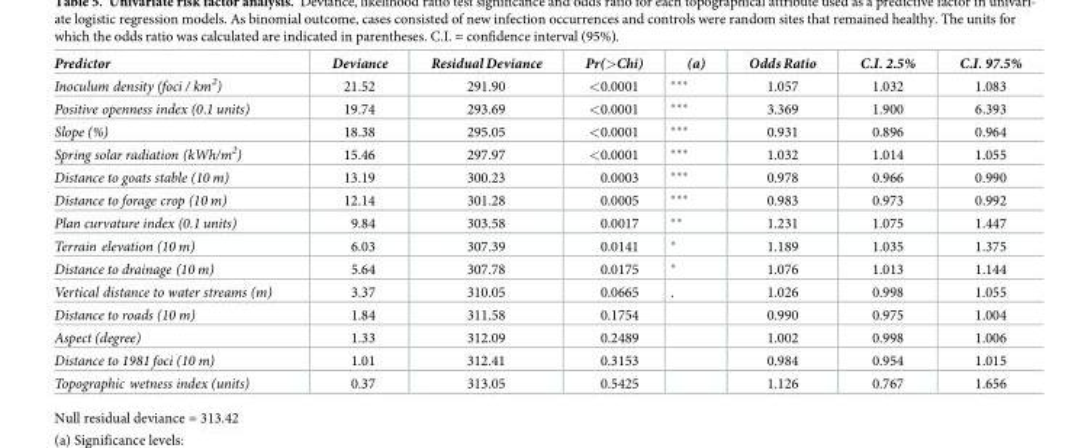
<table><thead><tr><td>Predictor</td><td>Deviance</td><td>Residual Deviance</td><td>Pr(&gt;Chi)</td><td>(a)</td><td>Odds Ratio</td><td>C.I. 2.5%</td><td>C.I. 97.5%</td></tr></thead><tbody><tr><td>Inoculum density (foci / km<sup>2</sup>)</td><td>21.52</td><td>291.90</td><td>&lt;0.0001</td><td>***</td><td>1.057</td><td>1.032</td><td>1.083</td></tr><tr><td>Positive openness index (0.1 units)</td><td>19.74</td><td>293.69</td><td>&lt;0.0001</td><td>***</td><td>3.369</td><td>1.900</td><td>6.393</td></tr><tr><td>Slope (%)</td><td>18.38</td><td>295.05</td><td>&lt;0.0001</td><td>***</td><td>0.931</td><td>0.896</td><td>0.964</td></tr><tr><td>Spring solar radiation (kWh/m<sup>2</sup>)</td><td>15.46</td><td>297.97</td><td>&lt;0.0001</td><td>***</td><td>1.032</td><td>1.014</td><td>1.055</td></tr><tr><td>Distance to goats stable (10 m)</td><td>13.19</td><td>300.23</td><td>0.0003</td><td>***</td><td>0.978</td><td>0.966</td><td>0.990</td></tr><tr><td>Distance to forage crop (10 m)</td><td>12.14</td><td>301.28</td><td>0.0005</td><td>***</td><td>0.983</td><td>0.973</td><td>0.992</td></tr><tr><td>Plan curvature index (0.1 units)</td><td>9.84</td><td>303.58</td><td>0.0017</td><td>**</td><td>1.231</td><td>1.075</td><td>1.447</td></tr><tr><td>Terrain elevation (10 m)</td><td>6.03</td><td>307.39</td><td>0.0141</td><td>*</td><td>1.189</td><td>1.035</td><td>1.375</td></tr><tr><td>Distance to drainage (10 m)</td><td>5.64</td><td>307.78</td><td>0.0175</td><td>*</td><td>1.076</td><td>1.013</td><td>1.144</td></tr><tr><td>Vertical distance to water streams (m)</td><td>3.37</td><td>310.05</td><td>0.0665</td><td>.</td><td>1.026</td><td>0.998</td><td>1.055</td></tr><tr><td>Distance to roads (10 m)</td><td>1.84</td><td>311.58</td><td>0.1754</td><td></td><td>0.990</td><td>0.975</td><td>1.004</td></tr><tr><td>Aspect (degree)</td><td>1.33</td><td>312.09</td><td>0.2489</td><td></td><td>1.002</td><td>0.998</td><td>1.006</td></tr><tr><td>Distance to 1981 foci (10 m)</td><td>1.01</td><td>312.41</td><td>0.3153</td><td></td><td>0.984</td><td>0.954</td><td>1.015</td></tr><tr><td>Topographic wetness index (units)</td><td>0.37</td><td>313.05</td><td>0.5425</td><td></td><td>1.126</td><td>0.767</td><td>1.656</td></tr></tbody></table>